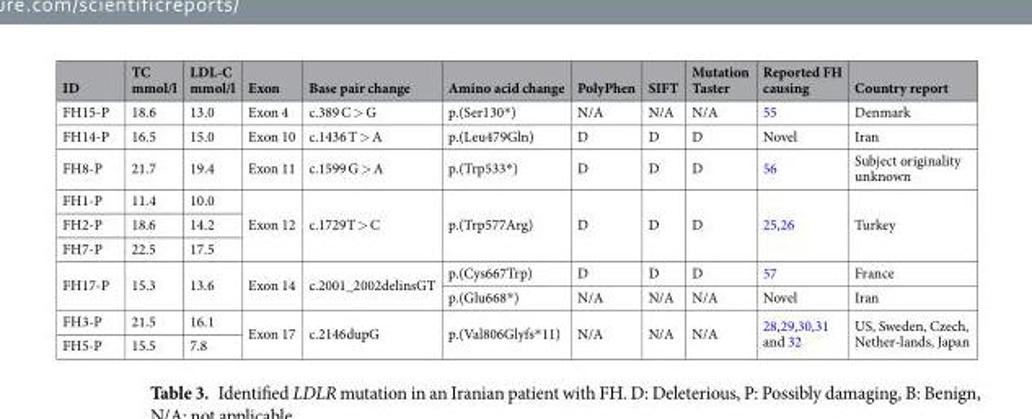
<table><thead><tr><td>ID</td><td>TC mmol/l</td><td>LDL-C mmol/l</td><td>Exon</td><td>Base pair change</td><td>Amino acid change</td><td>PolyPhen</td><td>SIFT</td><td>Mutation Taster</td><td>Reported FH causing</td><td>Country report</td></tr></thead><tbody><tr><td>FH15-P</td><td>18.6</td><td>13.0</td><td>Exon 4</td><td>c.389 C &gt; G</td><td>p.(Ser130*)</td><td>N/A</td><td>N/A</td><td>N/A</td><td>55</td><td>Denmark</td></tr><tr><td>FH14-P</td><td>16.5</td><td>15.0</td><td>Exon 10</td><td>c.1436 T &gt; A</td><td>p.(Leu479Gln)</td><td>D</td><td>D</td><td>D</td><td>Novel</td><td>Iran</td></tr><tr><td>FH8-P</td><td>21.7</td><td>19.4</td><td>Exon 11</td><td>c.1599 G &gt; A</td><td>p.(Trp533*)</td><td>D</td><td>D</td><td>D</td><td>56</td><td>Subject originality unknown</td></tr><tr><td>FH1-P</td><td>11.4</td><td>10.0</td><td rowspan="3">Exon 12</td><td rowspan="3">c.1729T &gt; C</td><td rowspan="3">p.(Trp577Arg)</td><td rowspan="3">D</td><td rowspan="3">D</td><td rowspan="3">D</td><td rowspan="3">25,26</td><td rowspan="3">Turkey</td></tr><tr><td>FH2-P</td><td>18.6</td><td>14.2</td></tr><tr><td>FH7-P</td><td>22.5</td><td>17.5</td></tr><tr><td rowspan="2">FH17-P</td><td rowspan="2">15.3</td><td rowspan="2">13.6</td><td rowspan="2">Exon 14</td><td rowspan="2">c.2001_2002delinsGT</td><td>p.(Cys667Trp)</td><td>D</td><td>D</td><td>D</td><td>57</td><td>France</td></tr><tr><td>p.(Glu668*)</td><td>N/A</td><td>N/A</td><td>N/A</td><td>Novel</td><td>Iran</td></tr><tr><td>FH3-P</td><td>21.5</td><td>16.1</td><td rowspan="2">Exon 17</td><td rowspan="2">c.2146dupG</td><td rowspan="2">p.(Val806Glyfs*11)</td><td rowspan="2">N/A</td><td rowspan="2">N/A</td><td rowspan="2">N/A</td><td rowspan="2">28,29,30,31 and 32</td><td rowspan="2">US, Sweden, Czech, Nether-lands, Japan</td></tr><tr><td>FH5-P</td><td>15.5</td><td>7.8</td></tr></tbody></table>